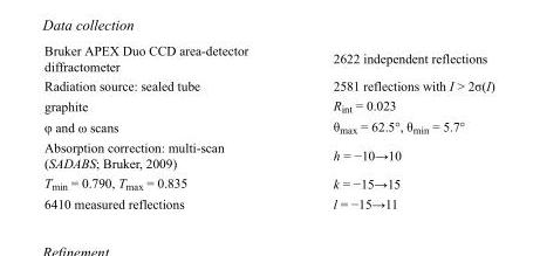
<table><tbody><tr><td>Bruker APEX Duo CCD area-detector diffractometer</td><td>2622 independent reflections</td></tr><tr><td>Radiation source: sealed tube</td><td>2581 reflections with I &gt; 2σ(I)</td></tr><tr><td>graphite</td><td>R<sub>int</sub> = 0.023</td></tr><tr><td>φ and ω scans</td><td>θ<sub>max</sub> = 62.5°, θ<sub>min</sub> = 5.7°</td></tr><tr><td>Absorption correction: multi-scan (SADABS; Bruker, 2009)</td><td>h = −10→10</td></tr><tr><td>T<sub>min</sub> = 0.790, T<sub>max</sub> = 0.835</td><td>k = −15→15</td></tr><tr><td>6410 measured reflections</td><td>l = −15→11</td></tr></tbody></table>